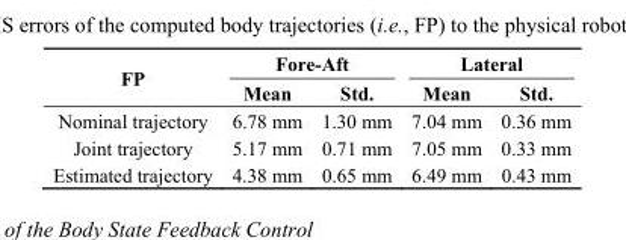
<table><thead><tr><td rowspan="2">FP</td><td colspan="2">Fore-Aft</td><td colspan="2">Lateral</td></tr><tr><td>Mean</td><td>Std.</td><td>Mean</td><td>Std.</td></tr></thead><tbody><tr><td>Nominal trajectory</td><td>6.78 mm</td><td>1.30 mm</td><td>7.04 mm</td><td>0.36 mm</td></tr><tr><td>Joint trajectory</td><td>5.17 mm</td><td>0.71 mm</td><td>7.05 mm</td><td>0.33 mm</td></tr><tr><td>Estimated trajectory</td><td>4.38 mm</td><td>0.65 mm</td><td>6.49 mm</td><td>0.43 mm</td></tr></tbody></table>